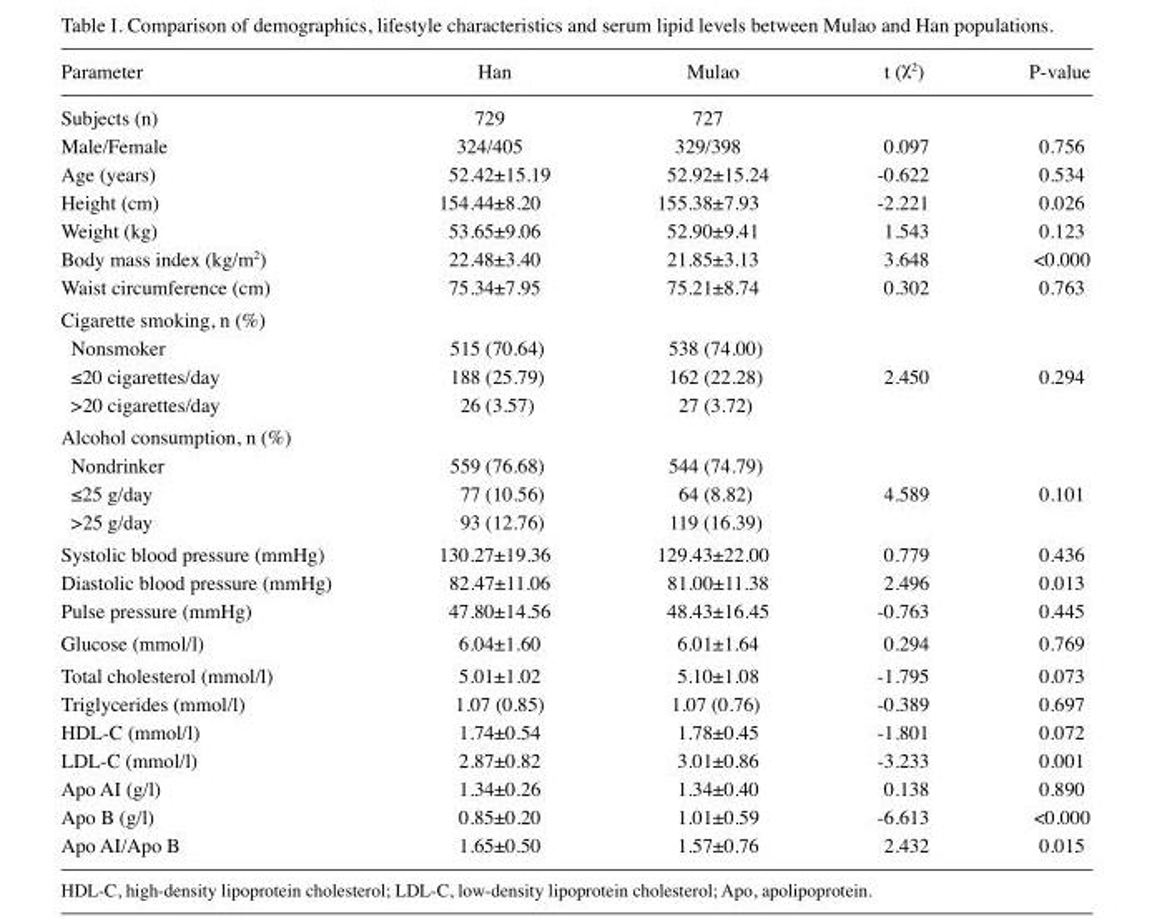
<table><thead><tr><td>Parameter</td><td>Han</td><td>Mulao</td><td>t (χ<sup>2</sup>)</td><td>P-value</td></tr></thead><tbody><tr><td>Subjects (n)</td><td>729</td><td>727</td><td></td><td></td></tr><tr><td>Male/Female</td><td>324/405</td><td>329/398</td><td>0.097</td><td>0.756</td></tr><tr><td>Age (years)</td><td>52.42±15.19</td><td>52.92±15.24</td><td>-0.622</td><td>0.534</td></tr><tr><td>Height (cm)</td><td>154.44±8.20</td><td>155.38±7.93</td><td>-2.221</td><td>0.026</td></tr><tr><td>Weight (kg)</td><td>53.65±9.06</td><td>52.90±9.41</td><td>1.543</td><td>0.123</td></tr><tr><td>Body mass index (kg/m<sup>2</sup>)</td><td>22.48±3.40</td><td>21.85±3.13</td><td>3.648</td><td>&lt;0.000</td></tr><tr><td>Waist circumference (cm)</td><td>75.34±7.95</td><td>75.21±8.74</td><td>0.302</td><td>0.763</td></tr><tr><td colspan="5">Cigarette smoking, n (%)</td></tr><tr><td>Nonsmoker</td><td>515 (70.64)</td><td>538 (74.00)</td><td></td><td></td></tr><tr><td>≤20 cigarettes/day</td><td>188 (25.79)</td><td>162 (22.28)</td><td>2.450</td><td>0.294</td></tr><tr><td>&gt;20 cigarettes/day</td><td>26 (3.57)</td><td>27 (3.72)</td><td></td><td></td></tr><tr><td colspan="5">Alcohol consumption, n (%)</td></tr><tr><td>Nondrinker</td><td>559 (76.68)</td><td>544 (74.79)</td><td></td><td></td></tr><tr><td>≤25 g/day</td><td>77 (10.56)</td><td>64 (8.82)</td><td>4.589</td><td>0.101</td></tr><tr><td>&gt;25 g/day</td><td>93 (12.76)</td><td>119 (16.39)</td><td></td><td></td></tr><tr><td>Systolic blood pressure (mmHg)</td><td>130.27±19.36</td><td>129.43±22.00</td><td>0.779</td><td>0.436</td></tr><tr><td>Diastolic blood pressure (mmHg)</td><td>82.47±11.06</td><td>81.00±11.38</td><td>2.496</td><td>0.013</td></tr><tr><td>Pulse pressure (mmHg)</td><td>47.80±14.56</td><td>48.43±16.45</td><td>-0.763</td><td>0.445</td></tr><tr><td>Glucose (mmol/l)</td><td>6.04±1.60</td><td>6.01±1.64</td><td>0.294</td><td>0.769</td></tr><tr><td>Total cholesterol (mmol/l)</td><td>5.01±1.02</td><td>5.10±1.08</td><td>-1.795</td><td>0.073</td></tr><tr><td>Triglycerides (mmol/l)</td><td>1.07 (0.85)</td><td>1.07 (0.76)</td><td>-0.389</td><td>0.697</td></tr><tr><td>HDL-C (mmol/l)</td><td>1.74±0.54</td><td>1.78±0.45</td><td>-1.801</td><td>0.072</td></tr><tr><td>LDL-C (mmol/l)</td><td>2.87±0.82</td><td>3.01±0.86</td><td>-3.233</td><td>0.001</td></tr><tr><td>Apo AI (g/l)</td><td>1.34±0.26</td><td>1.34±0.40</td><td>0.138</td><td>0.890</td></tr><tr><td>Apo B (g/l)</td><td>0.85±0.20</td><td>1.01±0.59</td><td>-6.613</td><td>&lt;0.000</td></tr><tr><td>Apo AI/Apo B</td><td>1.65±0.50</td><td>1.57±0.76</td><td>2.432</td><td>0.015</td></tr></tbody></table>